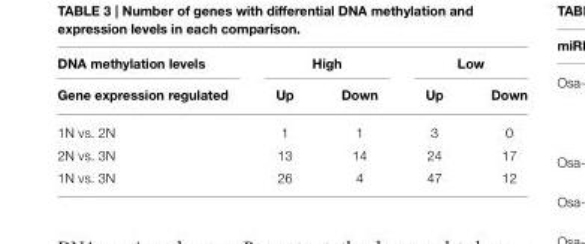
<table><thead><tr><td rowspan="2">DNA methylation levels Gene expression regulated</td><td colspan="2">High</td><td colspan="2">Low</td></tr><tr><td>Up</td><td>Down</td><td>Up</td><td>Down</td></tr></thead><tbody><tr><td>1N vs. 2N</td><td>1</td><td>1</td><td>3</td><td>0</td></tr><tr><td>2N vs. 3N</td><td>13</td><td>14</td><td>24</td><td>17</td></tr><tr><td>1N vs. 3N</td><td>26</td><td>4</td><td>47</td><td>12</td></tr></tbody></table>